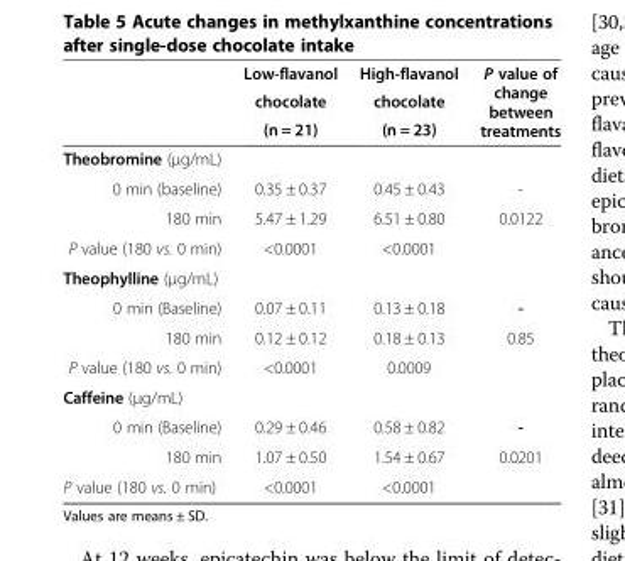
<table><thead><tr><td rowspan="3"></td><td rowspan="3">Low-flavanol chocolate (n = 21)</td><td rowspan="3">High-flavanol chocolate (n = 23)</td><td rowspan="3">P value of change between treatments</td></tr><tr></tr><tr></tr></thead><tbody><tr><td colspan="4">Theobromine (μg/mL)</td></tr><tr><td>0 min (baseline)</td><td>0.35 ± 0.37</td><td>0.45 ± 0.43</td><td>-</td></tr><tr><td>180 min</td><td>5.47 ± 1.29</td><td>6.51 ± 0.80</td><td>0.0122</td></tr><tr><td>P value (180 vs. 0 min)</td><td>&lt;0.0001</td><td>&lt;0.0001</td><td></td></tr><tr><td colspan="4">Theophylline (μg/mL)</td></tr><tr><td>0 min (Baseline)</td><td>0.07 ± 0.11</td><td>0.13 ± 0.18</td><td>-</td></tr><tr><td>180 min</td><td>0.12 ± 0.12</td><td>0.18 ± 0.13</td><td>0.85</td></tr><tr><td>P value (180 vs. 0 min)</td><td>&lt;0.0001</td><td>0.0009</td><td></td></tr><tr><td colspan="4">Caffeine (μg/mL)</td></tr><tr><td>0 min (Baseline)</td><td>0.29 ± 0.46</td><td>0.58 ± 0.82</td><td>-</td></tr><tr><td>180 min</td><td>1.07 ± 0.50</td><td>1.54 ± 0.67</td><td>0.0201</td></tr><tr><td>P value (180 vs. 0 min)</td><td>&lt;0.0001</td><td>&lt;0.0001</td><td></td></tr></tbody></table>